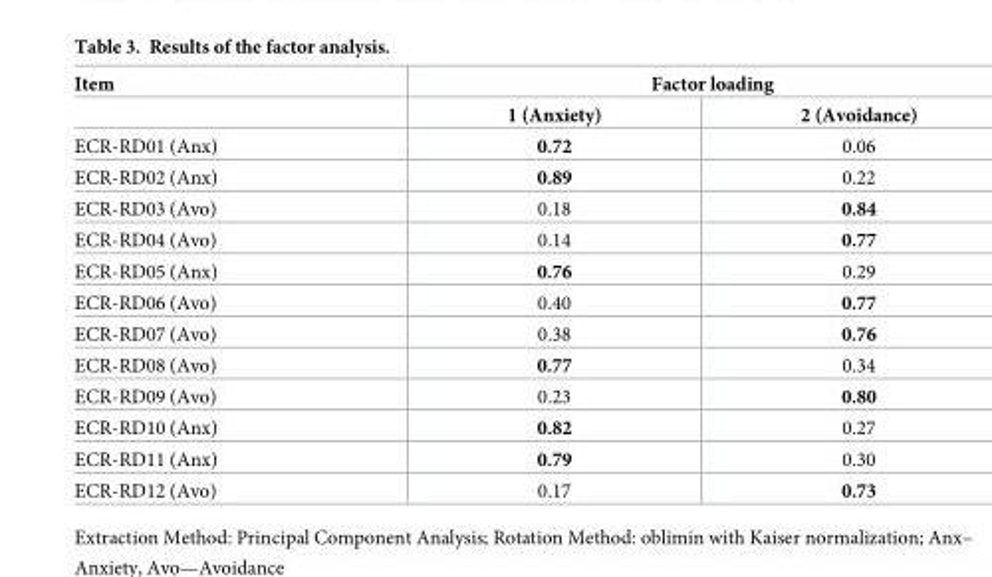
<table><thead><tr><td rowspan="2">Item</td><td colspan="2">Factor loading</td></tr><tr><td>1 (Anxiety)</td><td>2 (Avoidance)</td></tr></thead><tbody><tr><td>ECR-RD01 (Anx)</td><td>0.72</td><td>0.06</td></tr><tr><td>ECR-RD02 (Anx)</td><td>0.89</td><td>0.22</td></tr><tr><td>ECR-RD03 (Avo)</td><td>0.18</td><td>0.84</td></tr><tr><td>ECR-RD04 (Avo)</td><td>0.14</td><td>0.77</td></tr><tr><td>ECR-RD05 (Anx)</td><td>0.76</td><td>0.29</td></tr><tr><td>ECR-RD06 (Avo)</td><td>0.40</td><td>0.77</td></tr><tr><td>ECR-RD07 (Avo)</td><td>0.38</td><td>0.76</td></tr><tr><td>ECR-RD08 (Avo)</td><td>0.77</td><td>0.34</td></tr><tr><td>ECR-RD09 (Avo)</td><td>0.23</td><td>0.80</td></tr><tr><td>ECR-RD10 (Anx)</td><td>0.82</td><td>0.27</td></tr><tr><td>ECR-RD11 (Anx)</td><td>0.79</td><td>0.30</td></tr><tr><td>ECR-RD12 (Avo)</td><td>0.17</td><td>0.73</td></tr></tbody></table>